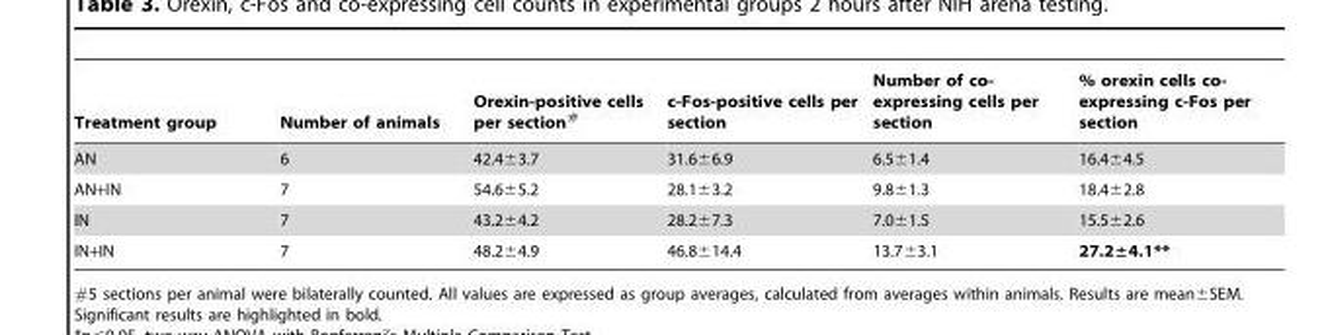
<table><thead><tr><td>Treatment group</td><td>Number of animals</td><td>Orexin-positive cells per section#</td><td>c-Fos-positive cells per section</td><td>Number of co- expressing cells per section</td><td>% orexin cells co- expressing c-Fos per section</td></tr></thead><tbody><tr><td>AN</td><td>6</td><td>42.4±3.7</td><td>31.6±6.9</td><td>6.5±1.4</td><td>16.4±4.5</td></tr><tr><td>AN+IN</td><td>7</td><td>54.6±5.2</td><td>28.1±3.2</td><td>9.8±1.3</td><td>18.4±2.8</td></tr><tr><td>IN</td><td>7</td><td>43.2±4.2</td><td>28.2±7.3</td><td>7.0±1.5</td><td>15.5±2.6</td></tr><tr><td>IN+IN</td><td>7</td><td>48.2±4.9</td><td>46.8±14.4</td><td>13.7±3.1</td><td>27.2±4.1**</td></tr></tbody></table>